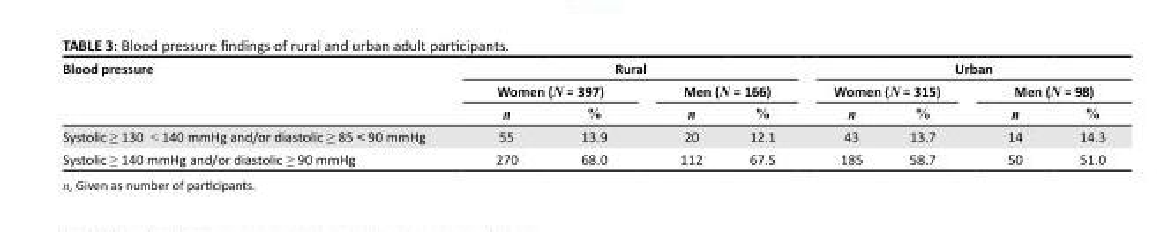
<table><thead><tr><td rowspan="3">Blood pressure</td><td colspan="4">Rural</td><td colspan="4">Urban</td></tr><tr><td colspan="2">Women (N = 397)</td><td colspan="2">Men (N = 166)</td><td colspan="2">Women (N = 315)</td><td colspan="2">Men (N = 98)</td></tr><tr><td>n</td><td>%</td><td>n</td><td>%</td><td>n</td><td>%</td><td>n</td><td>%</td></tr></thead><tbody><tr><td>Systolic ≥ 130 &lt; 140 mmHg and/or diastolic ≥ 85 &lt; 90 mmHg</td><td>55</td><td>13.9</td><td>20</td><td>12.1</td><td>43</td><td>13.7</td><td>14</td><td>14.3</td></tr><tr><td>Systolic ≥ 140 mmHg and/or diastolic ≥ 90 mmHg</td><td>270</td><td>68.0</td><td>112</td><td>67.5</td><td>185</td><td>58.7</td><td>50</td><td>51.0</td></tr></tbody></table>